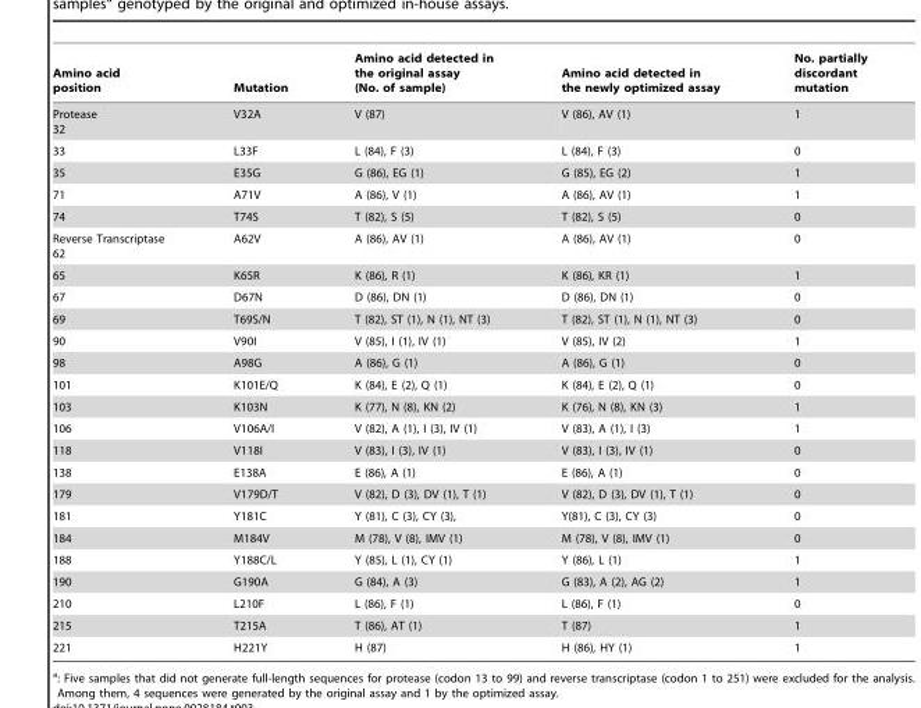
<table><thead><tr><td>Amino acid position</td><td>Mutation</td><td>Amino acid detected in the original assay (No. of sample)</td><td>Amino acid detected in the newly optimized assay</td><td>No. partially discordant mutation</td></tr></thead><tbody><tr><td>Protease 32</td><td>V32A</td><td>V (87)</td><td>V (86), AV (1)</td><td>1</td></tr><tr><td>33</td><td>L33F</td><td>L (84), F (3)</td><td>L (84), F (3)</td><td>0</td></tr><tr><td>35</td><td>E35G</td><td>G (86), EG (1)</td><td>G (85), EG (2)</td><td>1</td></tr><tr><td>71</td><td>A71V</td><td>A (86), V (1)</td><td>A (86), AV (1)</td><td>1</td></tr><tr><td>74</td><td>T74S</td><td>T (82), S (5)</td><td>T (82), S (5)</td><td>0</td></tr><tr><td>Reverse Transcriptase 62</td><td>A62V</td><td>A (86), AV (1)</td><td>A (86), AV (1)</td><td>0</td></tr><tr><td>65</td><td>K65R</td><td>K (86), R (1)</td><td>K (86), KR (1)</td><td>1</td></tr><tr><td>67</td><td>D67N</td><td>D (86), DN (1)</td><td>D (86), DN (1)</td><td>0</td></tr><tr><td>69</td><td>T69S/N</td><td>T (82), ST (1), N (1), NT (3)</td><td>T (82), ST (1), N (1), NT (3)</td><td>0</td></tr><tr><td>90</td><td>V90I</td><td>V (85), I (1), IV (1)</td><td>V (85), IV (2)</td><td>1</td></tr><tr><td>98</td><td>A98G</td><td>A (86), G (1)</td><td>A (86), G (1)</td><td>0</td></tr><tr><td>101</td><td>K101E/Q</td><td>K (84), E (2), Q (1)</td><td>K (84), E (2), Q (1)</td><td>0</td></tr><tr><td>103</td><td>K103N</td><td>K (77), N (8), KN (2)</td><td>K (76), N (8), KN (3)</td><td>1</td></tr><tr><td>106</td><td>V106A/I</td><td>V (82), A (1), I (3), IV (1)</td><td>V (83), A (1), I (3)</td><td>1</td></tr><tr><td>118</td><td>V118I</td><td>V (83), I (3), IV (1)</td><td>V (83), I (3), IV (1)</td><td>0</td></tr><tr><td>138</td><td>E138A</td><td>E (86), A (1)</td><td>E (86), A (1)</td><td>0</td></tr><tr><td>179</td><td>V179D/T</td><td>V (82), D (3), DV (1), T (1)</td><td>V (82), D (3), DV (1), T (1)</td><td>0</td></tr><tr><td>181</td><td>Y181C</td><td>Y (81), C (3), CY (3),</td><td>Y(81), C (3), CY (3)</td><td>0</td></tr><tr><td>184</td><td>M184V</td><td>M (78), V (8), IMV (1)</td><td>M (78), V (8), IMV (1)</td><td>0</td></tr><tr><td>188</td><td>Y188C/L</td><td>Y (85), L (1), CY (1)</td><td>Y (86), L (1)</td><td>1</td></tr><tr><td>190</td><td>G190A</td><td>G (84), A (3)</td><td>G (83), A (2), AG (2)</td><td>1</td></tr><tr><td>210</td><td>L210F</td><td>L (86), F (1)</td><td>L (86), F (1)</td><td>0</td></tr><tr><td>215</td><td>T215A</td><td>T (86), AT (1)</td><td>T (87)</td><td>1</td></tr><tr><td>221</td><td>H221Y</td><td>H (87)</td><td>H (86), HY (1)</td><td>1</td></tr></tbody></table>